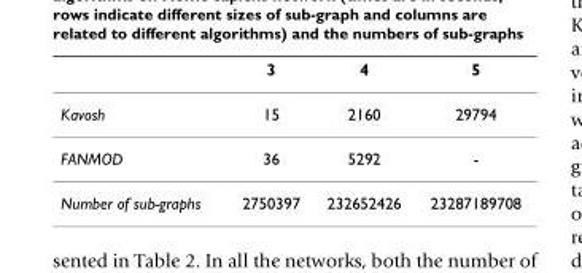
<table><thead><tr><td></td><td>3</td><td>4</td><td>5</td></tr></thead><tbody><tr><td>Kavosh</td><td>15</td><td>2160</td><td>29794</td></tr><tr><td>FANMOD</td><td>36</td><td>5292</td><td>-</td></tr><tr><td>Number of sub-graphs</td><td>2750397</td><td>232652426</td><td>23287189708</td></tr></tbody></table>